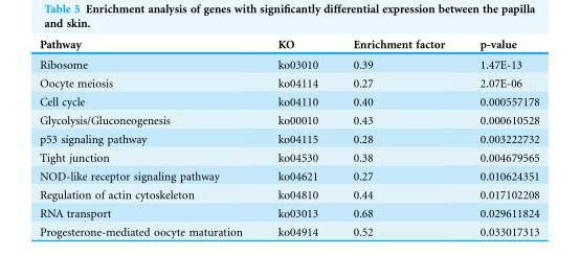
<table><thead><tr><td>Pathway</td><td>KO</td><td>Enrichment factor</td><td>p-value</td></tr></thead><tbody><tr><td>Ribosome</td><td>ko03010</td><td>0.39</td><td>1.47E-13</td></tr><tr><td>Oocyte meiosis</td><td>ko04114</td><td>0.27</td><td>2.07E-06</td></tr><tr><td>Cell cycle</td><td>ko04110</td><td>0.40</td><td>0.000557178</td></tr><tr><td>Glycolysis/Gluconeogenesis</td><td>ko00010</td><td>0.43</td><td>0.000610528</td></tr><tr><td>p53 signaling pathway</td><td>ko04115</td><td>0.28</td><td>0.003222732</td></tr><tr><td>Tight junction</td><td>ko04530</td><td>0.38</td><td>0.004679565</td></tr><tr><td>NOD-like receptor signaling pathway</td><td>ko04621</td><td>0.27</td><td>0.010624351</td></tr><tr><td>Regulation of actin cytoskeleton</td><td>ko04810</td><td>0.44</td><td>0.017102208</td></tr><tr><td>RNA transport</td><td>ko03013</td><td>0.68</td><td>0.029611824</td></tr><tr><td>Progesterone-mediated oocyte maturation</td><td>ko04914</td><td>0.52</td><td>0.033017313</td></tr></tbody></table>